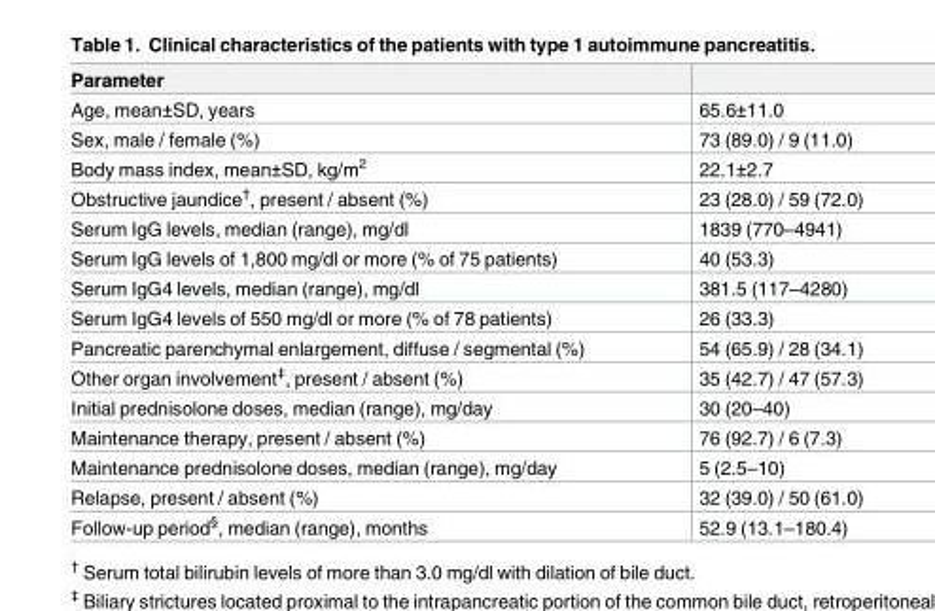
<table><thead><tr><td>Parameter</td><td></td></tr></thead><tbody><tr><td>Age, mean±SD, years</td><td>65.6±11.0</td></tr><tr><td>Sex, male / female (%)</td><td>73 (89.0) / 9 (11.0)</td></tr><tr><td>Body mass index, mean±SD, kg/m<sup>2</sup></td><td>22.1±2.7</td></tr><tr><td>Obstructive jaundice<sup>†</sup>, present / absent (%)</td><td>23 (28.0) / 59 (72.0)</td></tr><tr><td>Serum IgG levels, median (range), mg/dl</td><td>1839 (770–4941)</td></tr><tr><td>Serum IgG levels of 1,800 mg/dl or more (% of 75 patients)</td><td>40 (53.3)</td></tr><tr><td>Serum IgG4 levels, median (range), mg/dl</td><td>381.5 (117–4280)</td></tr><tr><td>Serum IgG4 levels of 550 mg/dl or more (% of 78 patients)</td><td>26 (33.3)</td></tr><tr><td>Pancreatic parenchymal enlargement, diffuse / segmental (%)</td><td>54 (65.9) / 28 (34.1)</td></tr><tr><td>Other organ involvement<sup>‡</sup>, present / absent (%)</td><td>35 (42.7) / 47 (57.3)</td></tr><tr><td>Initial prednisolone doses, median (range), mg/day</td><td>30 (20–40)</td></tr><tr><td>Maintenance therapy, present / absent (%)</td><td>76 (92.7) / 6 (7.3)</td></tr><tr><td>Maintenance prednisolone doses, median (range), mg/day</td><td>5 (2.5–10)</td></tr><tr><td>Relapse, present / absent (%)</td><td>32 (39.0) / 50 (61.0)</td></tr><tr><td>Follow-up period<sup>§</sup>, median (range), months</td><td>52.9 (13.1–180.4)</td></tr></tbody></table>